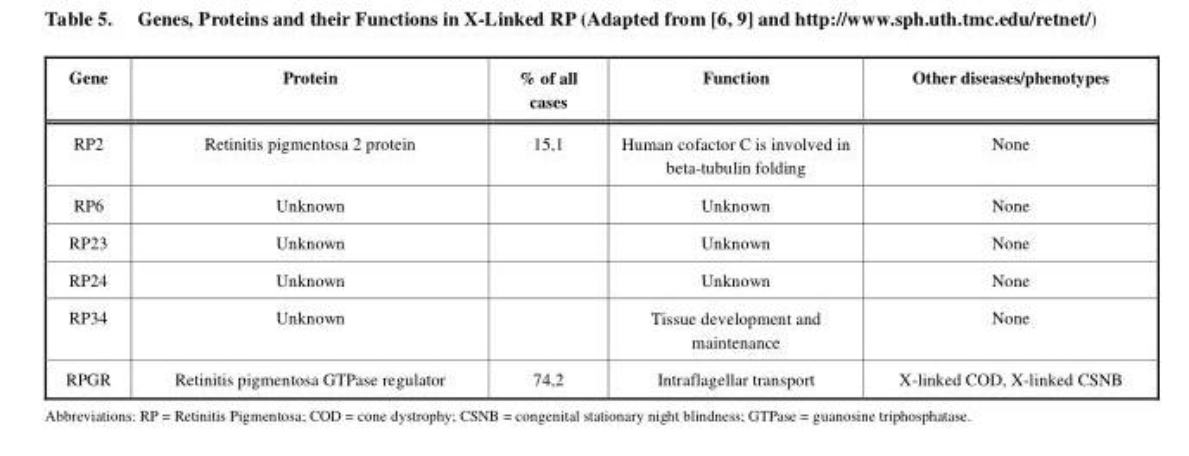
<table><thead><tr><td>Gene</td><td>Protein</td><td>% of all cases</td><td>Function</td><td>Other diseases/phenotypes</td></tr></thead><tbody><tr><td>RP2</td><td>Retinitis pigmentosa 2 protein</td><td>15,1</td><td>Human cofactor C is involved in beta-tubulin folding</td><td>None</td></tr><tr><td>RP6</td><td>Unknown</td><td></td><td>Unknown</td><td>None</td></tr><tr><td>RP23</td><td>Unknown</td><td></td><td>Unknown</td><td>None</td></tr><tr><td>RP24</td><td>Unknown</td><td></td><td>Unknown</td><td>None</td></tr><tr><td>RP34</td><td>Unknown</td><td></td><td>Tissue development and maintenance</td><td>None</td></tr><tr><td>RPGR</td><td>Retinitis pigmentosa GTPase regulator</td><td>74,2</td><td>Intraflagellar transport</td><td>X-linked COD, X-linked CSNB</td></tr></tbody></table>